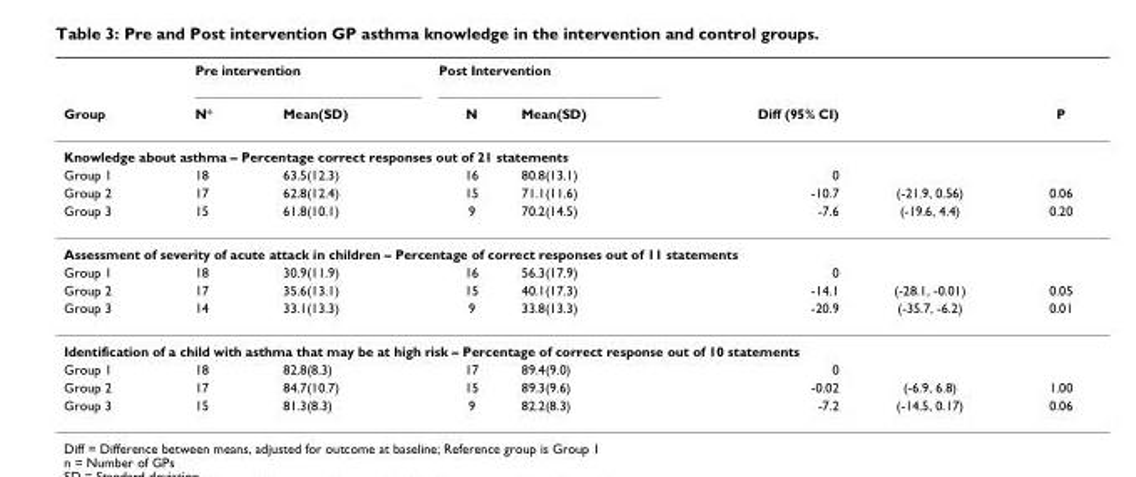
<table><thead><tr><td rowspan="2">Group</td><td colspan="2">Pre intervention</td><td colspan="2">Post Intervention</td><td rowspan="2">Diff (95% CI)</td><td rowspan="2"></td><td rowspan="2">P</td></tr><tr><td>N*</td><td>Mean(SD)</td><td>N</td><td>Mean(SD)</td></tr></thead><tbody><tr><td colspan="8">Knowledge about asthma – Percentage correct responses out of 21 statements</td></tr><tr><td>Group 1</td><td>18</td><td>63.5(12.3)</td><td>16</td><td>80.8(13.1)</td><td>0</td><td></td><td></td></tr><tr><td>Group 2</td><td>17</td><td>62.8(12.4)</td><td>15</td><td>71.1(11.6)</td><td>-10.7</td><td>(-21.9, 0.56)</td><td>0.06</td></tr><tr><td>Group 3</td><td>15</td><td>61.8(10.1)</td><td>9</td><td>70.2(14.5)</td><td>-7.6</td><td>(-19.6, 4.4)</td><td>0.20</td></tr><tr><td colspan="8">Assessment of severity of acute attack in children – Percentage of correct responses out of 11 statements</td></tr><tr><td>Group 1</td><td>18</td><td>30.9(11.9)</td><td>16</td><td>56.3(17.9)</td><td>0</td><td></td><td></td></tr><tr><td>Group 2</td><td>17</td><td>35.6(13.1)</td><td>15</td><td>40.1(17.3)</td><td>-14.1</td><td>(-28.1, -0.01)</td><td>0.05</td></tr><tr><td>Group 3</td><td>14</td><td>33.1(13.3)</td><td>9</td><td>33.8(13.3)</td><td>-20.9</td><td>(-35.7, -6.2)</td><td>0.01</td></tr><tr><td colspan="8">Identification of a child with asthma that may be at high risk – Percentage of correct response out of 10 statements</td></tr><tr><td>Group 1</td><td>18</td><td>82.8(8.3)</td><td>17</td><td>89.4(9.0)</td><td>0</td><td></td><td></td></tr><tr><td>Group 2</td><td>17</td><td>84.7(10.7)</td><td>15</td><td>89.3(9.6)</td><td>-0.02</td><td>(-6.9, 6.8)</td><td>1.00</td></tr><tr><td>Group 3</td><td>15</td><td>81.3(8.3)</td><td>9</td><td>82.2(8.3)</td><td>-7.2</td><td>(-14.5, 0.17)</td><td>0.06</td></tr></tbody></table>